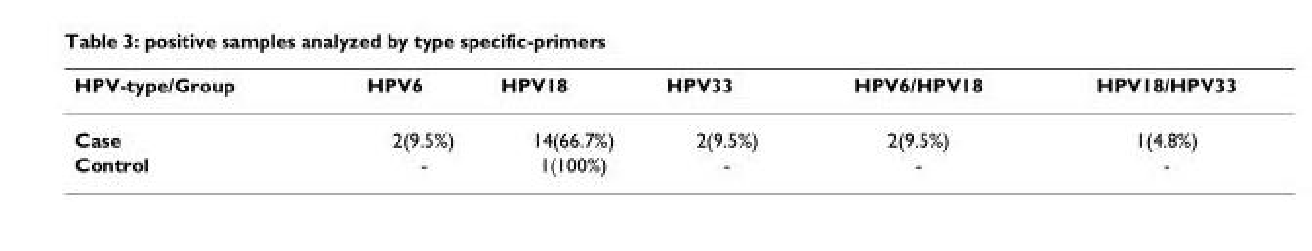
<table><thead><tr><td>HPV-type/Group</td><td>HPV6</td><td>HPV18</td><td>HPV33</td><td>HPV6/HPV18</td><td>HPV18/HPV33</td></tr></thead><tbody><tr><td>Case</td><td>2(9.5%)</td><td>14(66.7%)</td><td>2(9.5%)</td><td>2(9.5%)</td><td>1(4.8%)</td></tr><tr><td>Control</td><td>-</td><td>1(100%)</td><td>-</td><td>-</td><td>-</td></tr></tbody></table>